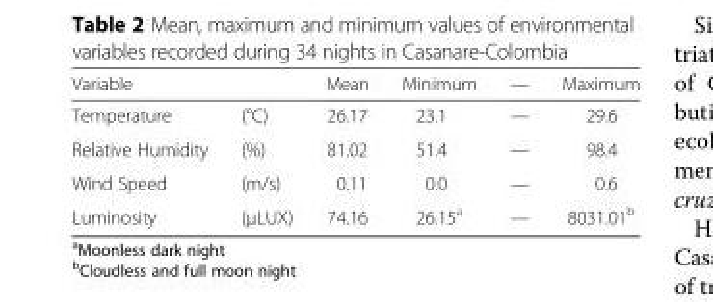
<table><thead><tr><td colspan="2">Variable</td><td rowspan="2">Mean 26.17</td><td rowspan="2">Minimum 23.1</td><td rowspan="2">— —</td><td rowspan="2">Maximum 29.6</td></tr><tr><td>Temperature</td><td>(°C)</td></tr></thead><tbody><tr><td>Relative Humidity</td><td>(%)</td><td>81.02</td><td>51.4</td><td>—</td><td>98.4</td></tr><tr><td>Wind Speed</td><td>(m/s)</td><td>0.11</td><td>0.0</td><td>—</td><td>0.6</td></tr><tr><td>Luminosity</td><td>(μLUX)</td><td>74.16</td><td>26.15<sup>a</sup></td><td>—</td><td>8031.01<sup>b</sup></td></tr></tbody></table>